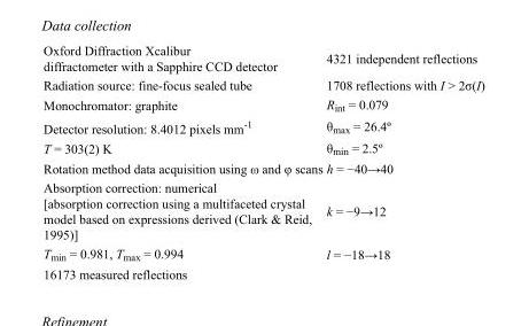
<table><tbody><tr><td>Oxford Diffraction Xcalibur diffractometer with a Sapphire CCD detector</td><td>4321 independent reflections</td></tr><tr><td>Radiation source: fine-focus sealed tube</td><td>1708 reflections with I &gt; 2σ(I)</td></tr><tr><td>Monochromator: graphite</td><td>R<sub>int</sub> = 0.079</td></tr><tr><td>Detector resolution: 8.4012 pixels mm<sup>-1</sup></td><td>θ<sub>max</sub> = 26.4º</td></tr><tr><td>T = 303(2) K</td><td>θ<sub>min</sub> = 2.5º</td></tr><tr><td>Rotation method data acquisition using ω and φ scans</td><td>h = −40→40</td></tr><tr><td>Absorption correction: numerical [absorption correction using a multifaceted crystal model based on expressions derived (Clark &amp; Reid, 1995)]</td><td>k = −9→12</td></tr><tr><td>T<sub>min</sub> = 0.981, T<sub>max</sub> = 0.994</td><td>l = −18→18</td></tr><tr><td>16173 measured reflections</td><td></td></tr></tbody></table>